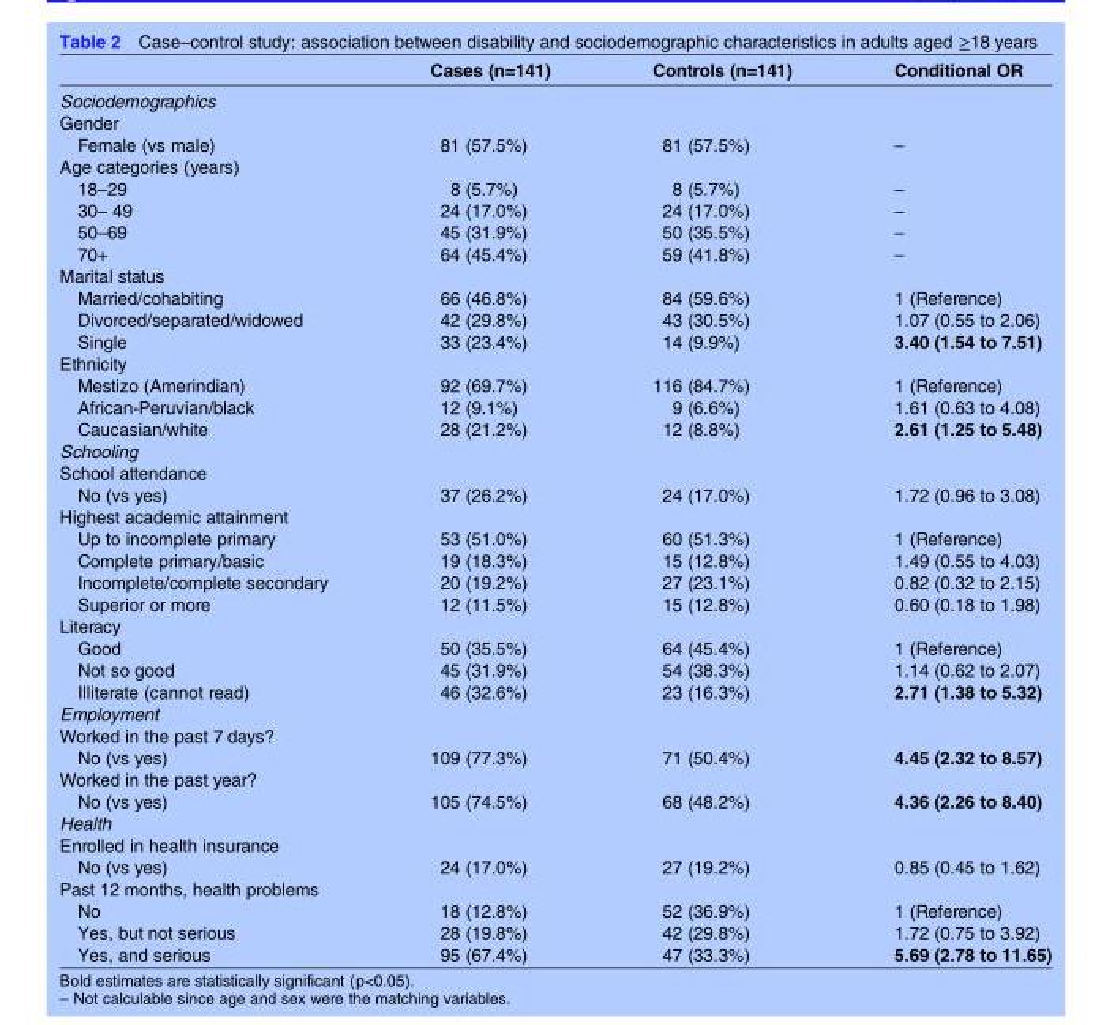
<table><thead><tr><td></td><td>Cases (n=141)</td><td>Controls (n=141)</td><td>Conditional OR</td></tr></thead><tbody><tr><td colspan="4">Sociodemographics</td></tr><tr><td colspan="4">Gender</td></tr><tr><td>Female (vs male)</td><td>81 (57.5%)</td><td>81 (57.5%)</td><td>–</td></tr><tr><td colspan="4">Age categories (years)</td></tr><tr><td>18–29</td><td>8 (5.7%)</td><td>8 (5.7%)</td><td>–</td></tr><tr><td>30– 49</td><td>24 (17.0%)</td><td>24 (17.0%)</td><td>–</td></tr><tr><td>50–69</td><td>45 (31.9%)</td><td>50 (35.5%)</td><td>–</td></tr><tr><td>70+</td><td>64 (45.4%)</td><td>59 (41.8%)</td><td>–</td></tr><tr><td colspan="4">Marital status</td></tr><tr><td>Married/cohabiting</td><td>66 (46.8%)</td><td>84 (59.6%)</td><td>1 (Reference)</td></tr><tr><td>Divorced/separated/widowed</td><td>42 (29.8%)</td><td>43 (30.5%)</td><td>1.07 (0.55 to 2.06)</td></tr><tr><td>Single</td><td>33 (23.4%)</td><td>14 (9.9%)</td><td>3.40 (1.54 to 7.51)</td></tr><tr><td colspan="4">Ethnicity</td></tr><tr><td>Mestizo (Amerindian)</td><td>92 (69.7%)</td><td>116 (84.7%)</td><td>1 (Reference)</td></tr><tr><td>African-Peruvian/black</td><td>12 (9.1%)</td><td>9 (6.6%)</td><td>1.61 (0.63 to 4.08)</td></tr><tr><td>Caucasian/white</td><td>28 (21.2%)</td><td>12 (8.8%)</td><td>2.61 (1.25 to 5.48)</td></tr><tr><td colspan="4">Schooling</td></tr><tr><td colspan="4">School attendance</td></tr><tr><td>No (vs yes)</td><td>37 (26.2%)</td><td>24 (17.0%)</td><td>1.72 (0.96 to 3.08)</td></tr><tr><td colspan="4">Highest academic attainment</td></tr><tr><td>Up to incomplete primary</td><td>53 (51.0%)</td><td>60 (51.3%)</td><td>1 (Reference)</td></tr><tr><td>Complete primary/basic</td><td>19 (18.3%)</td><td>15 (12.8%)</td><td>1.49 (0.55 to 4.03)</td></tr><tr><td>Incomplete/complete secondary</td><td>20 (19.2%)</td><td>27 (23.1%)</td><td>0.82 (0.32 to 2.15)</td></tr><tr><td>Superior or more</td><td>12 (11.5%)</td><td>15 (12.8%)</td><td>0.60 (0.18 to 1.98)</td></tr><tr><td colspan="4">Literacy</td></tr><tr><td>Good</td><td>50 (35.5%)</td><td>64 (45.4%)</td><td>1 (Reference)</td></tr><tr><td>Not so good</td><td>45 (31.9%)</td><td>54 (38.3%)</td><td>1.14 (0.62 to 2.07)</td></tr><tr><td>Illiterate (cannot read)</td><td>46 (32.6%)</td><td>23 (16.3%)</td><td>2.71 (1.38 to 5.32)</td></tr><tr><td colspan="4">Employment</td></tr><tr><td colspan="4">Worked in the past 7 days?</td></tr><tr><td>No (vs yes)</td><td>109 (77.3%)</td><td>71 (50.4%)</td><td>4.45 (2.32 to 8.57)</td></tr><tr><td colspan="4">Worked in the past year?</td></tr><tr><td>No (vs yes)</td><td>105 (74.5%)</td><td>68 (48.2%)</td><td>4.36 (2.26 to 8.40)</td></tr><tr><td colspan="4">Health</td></tr><tr><td colspan="4">Enrolled in health insurance</td></tr><tr><td>No (vs yes)</td><td>24 (17.0%)</td><td>27 (19.2%)</td><td>0.85 (0.45 to 1.62)</td></tr><tr><td colspan="4">Past 12 months, health problems</td></tr><tr><td>No</td><td>18 (12.8%)</td><td>52 (36.9%)</td><td>1 (Reference)</td></tr><tr><td>Yes, but not serious</td><td>28 (19.8%)</td><td>42 (29.8%)</td><td>1.72 (0.75 to 3.92)</td></tr><tr><td>Yes, and serious</td><td>95 (67.4%)</td><td>47 (33.3%)</td><td>5.69 (2.78 to 11.65)</td></tr></tbody></table>